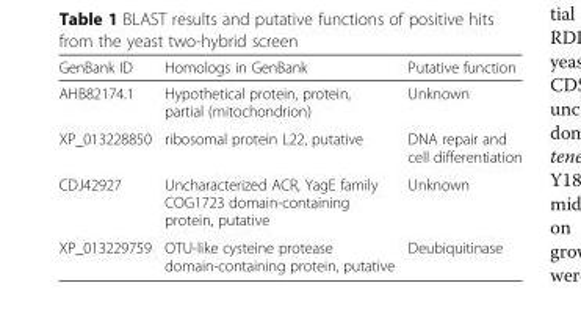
<table><thead><tr><td>GenBank ID</td><td>Homologs in GenBank</td><td>Putative function</td></tr></thead><tbody><tr><td>AHB82174.1</td><td>Hypothetical protein, protein, partial (mitochondrion)</td><td>Unknown</td></tr><tr><td>XP_013228850</td><td>ribosomal protein L22, putative</td><td>DNA repair and cell differentiation</td></tr><tr><td>CDJ42927</td><td>Uncharacterized ACR, YagE family COG1723 domain-containing protein, putative</td><td>Unknown</td></tr><tr><td>XP_013229759</td><td>OTU-like cysteine protease domain-containing protein, putative</td><td>Deubiquitinase</td></tr></tbody></table>